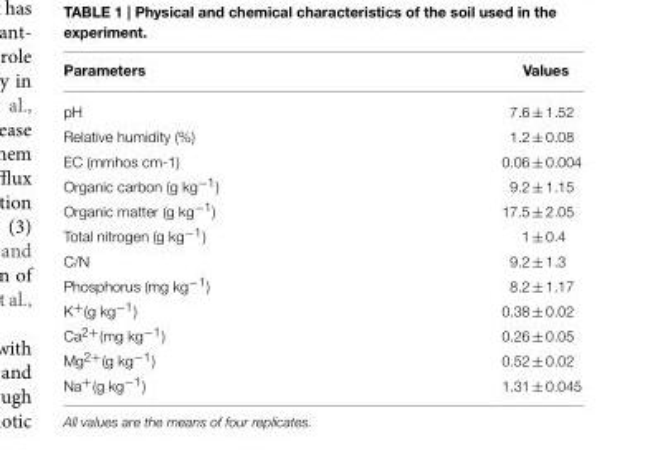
<table><thead><tr><td>Parameters</td><td>Values</td></tr></thead><tbody><tr><td>pH</td><td>7.6 ± 1.52</td></tr><tr><td>Relative humidity (%)</td><td>1.2 ± 0.08</td></tr><tr><td>EC (mmhos cm-1)</td><td>0.06 ± 0.004</td></tr><tr><td>Organic carbon (g kg<sup>−1</sup>)</td><td>9.2 ± 1.15</td></tr><tr><td>Organic matter (g kg<sup>−1</sup>)</td><td>17.5 ± 2.05</td></tr><tr><td>Total nitrogen (g kg<sup>−1</sup>)</td><td>1 ± 0.4</td></tr><tr><td>C/N</td><td>9.2 ± 1.3</td></tr><tr><td>Phosphorus (mg kg<sup>−1</sup>)</td><td>8.2 ± 1.17</td></tr><tr><td>K<sup>+</sup>(g kg<sup>−1</sup>)</td><td>0.38 ± 0.02</td></tr><tr><td>Ca<sup>2+</sup>(mg kg<sup>−1</sup>)</td><td>0.26 ± 0.05</td></tr><tr><td>Mg<sup>2+</sup>(g kg<sup>−1</sup>)</td><td>0.52 ± 0.02</td></tr><tr><td>Na<sup>+</sup>(g kg<sup>−1</sup>)</td><td>1.31 ± 0.045</td></tr></tbody></table>